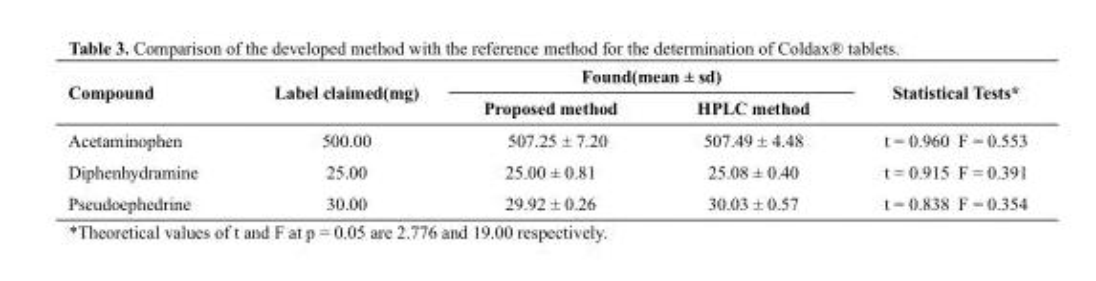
<table><thead><tr><td rowspan="2">Compound</td><td rowspan="2">Label claimed(mg)</td><td colspan="2">Found(mean ± sd)</td><td rowspan="2">Statistical Tests*</td></tr><tr><td>Proposed method</td><td>HPLC method</td></tr></thead><tbody><tr><td>Acetaminophen</td><td>500.00</td><td>507.25 ± 7.20</td><td>507.49 ± 4.48</td><td>t = 0.960 F = 0.553</td></tr><tr><td>Diphenhydramine</td><td>25.00</td><td>25.00 ± 0.81</td><td>25.08 ± 0.40</td><td>t = 0.915 F = 0.391</td></tr><tr><td>Pseudoephedrine</td><td>30.00</td><td>29.92 ± 0.26</td><td>30.03 ± 0.57</td><td>t = 0.838 F = 0.354</td></tr></tbody></table>